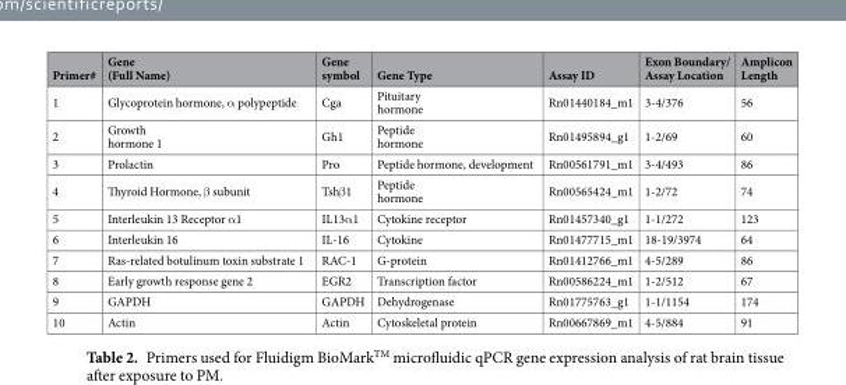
<table><thead><tr><td>Primer#</td><td>Gene (Full Name)</td><td>Gene symbol</td><td>Gene Type</td><td>Assay ID</td><td>Exon Boundary/ Assay Location</td><td>Amplicon Length</td></tr></thead><tbody><tr><td>1</td><td>Glycoprotein hormone, α polypeptide</td><td>Cga</td><td>Pituitary hormone</td><td>Rn01440184_m1</td><td>3-4/376</td><td>56</td></tr><tr><td>2</td><td>Growth hormone 1</td><td>Gh1</td><td>Peptide hormone</td><td>Rn01495894_g1</td><td>1-2/69</td><td>60</td></tr><tr><td>3</td><td>Prolactin</td><td>Pro</td><td>Peptide hormone, development</td><td>Rn00561791_m1</td><td>3-4/493</td><td>86</td></tr><tr><td>4</td><td>Thyroid Hormone, β subunit</td><td>Tshβ1</td><td>Peptide hormone</td><td>Rn00565424_m1</td><td>1-2/72</td><td>74</td></tr><tr><td>5</td><td>Interleukin 13 Receptor α1</td><td>IL13α1</td><td>Cytokine receptor</td><td>Rn01457340_g1</td><td>1-1/272</td><td>123</td></tr><tr><td>6</td><td>Interleukin 16</td><td>IL-16</td><td>Cytokine</td><td>Rn01477715_m1</td><td>18-19/3974</td><td>64</td></tr><tr><td>7</td><td>Ras-related botulinum toxin substrate 1</td><td>RAC-1</td><td>G-protein</td><td>Rn01412766_m1</td><td>4-5/289</td><td>86</td></tr><tr><td>8</td><td>Early growth response gene 2</td><td>EGR2</td><td>Transcription factor</td><td>Rn00586224_m1</td><td>1-2/512</td><td>67</td></tr><tr><td>9</td><td>GAPDH</td><td>GAPDH</td><td>Dehydrogenase</td><td>Rn01775763_g1</td><td>1-1/1154</td><td>174</td></tr><tr><td>10</td><td>Actin</td><td>Actin</td><td>Cytoskeletal protein</td><td>Rn00667869_m1</td><td>4-5/884</td><td>91</td></tr></tbody></table>